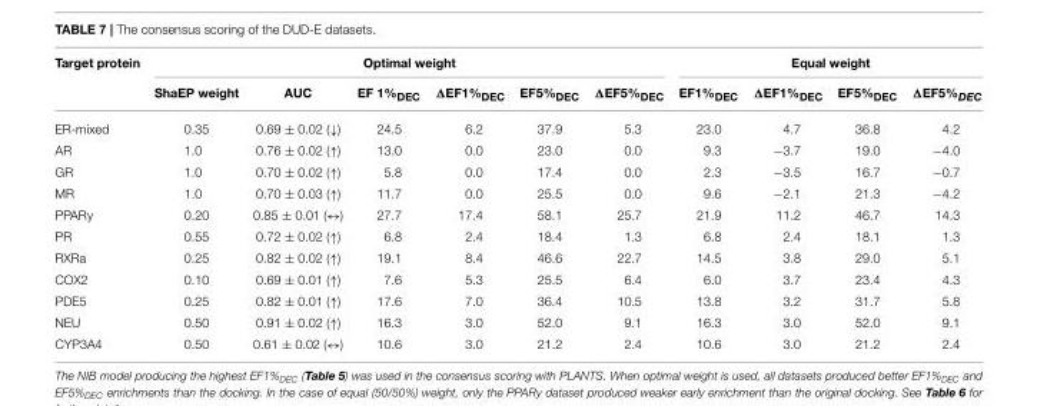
<table><thead><tr><td rowspan="2">Target protein</td><td colspan="6">Optimal weight</td><td colspan="4">Equal weight</td></tr><tr><td>ShaEP weight</td><td>AUC</td><td>EF 1%<sub>DEC</sub></td><td>ΔEF1%<sub>DEC</sub></td><td>EF5%<sub>DEC</sub></td><td>ΔEF5%<sub>DEC</sub></td><td>EF1%<sub>DEC</sub></td><td>ΔEF1%<sub>DEC</sub></td><td>EF5%<sub>DEC</sub></td><td>ΔEF5%<sub>DEC</sub></td></tr></thead><tbody><tr><td>ER-mixed</td><td>0.35</td><td>0.69 ± 0.02 (↓)</td><td>24.5</td><td>6.2</td><td>37.9</td><td>5.3</td><td>23.0</td><td>4.7</td><td>36.8</td><td>4.2</td></tr><tr><td>AR</td><td>1.0</td><td>0.76 ± 0.02 (↑)</td><td>13.0</td><td>0.0</td><td>23.0</td><td>0.0</td><td>9.3</td><td>−3.7</td><td>19.0</td><td>−4.0</td></tr><tr><td>GR</td><td>1.0</td><td>0.70 ± 0.02 (↑)</td><td>5.8</td><td>0.0</td><td>17.4</td><td>0.0</td><td>2.3</td><td>−3.5</td><td>16.7</td><td>−0.7</td></tr><tr><td>MR</td><td>1.0</td><td>0.70 ± 0.03 (↑)</td><td>11.7</td><td>0.0</td><td>25.5</td><td>0.0</td><td>9.6</td><td>−2.1</td><td>21.3</td><td>−4.2</td></tr><tr><td>PPARy</td><td>0.20</td><td>0.85 ± 0.01 (↔)</td><td>27.7</td><td>17.4</td><td>58.1</td><td>25.7</td><td>21.9</td><td>11.2</td><td>46.7</td><td>14.3</td></tr><tr><td>PR</td><td>0.55</td><td>0.72 ± 0.02 (↑)</td><td>6.8</td><td>2.4</td><td>18.4</td><td>1.3</td><td>6.8</td><td>2.4</td><td>18.1</td><td>1.3</td></tr><tr><td>RXRa</td><td>0.25</td><td>0.82 ± 0.02 (↑)</td><td>19.1</td><td>8.4</td><td>46.6</td><td>22.7</td><td>14.5</td><td>3.8</td><td>29.0</td><td>5.1</td></tr><tr><td>COX2</td><td>0.10</td><td>0.69 ± 0.01 (↑)</td><td>7.6</td><td>5.3</td><td>25.5</td><td>6.4</td><td>6.0</td><td>3.7</td><td>23.4</td><td>4.3</td></tr><tr><td>PDE5</td><td>0.25</td><td>0.82 ± 0.01 (↑)</td><td>17.6</td><td>7.0</td><td>36.4</td><td>10.5</td><td>13.8</td><td>3.2</td><td>31.7</td><td>5.8</td></tr><tr><td>NEU</td><td>0.50</td><td>0.91 ± 0.02 (↑)</td><td>16.3</td><td>3.0</td><td>52.0</td><td>9.1</td><td>16.3</td><td>3.0</td><td>52.0</td><td>9.1</td></tr><tr><td>CYP3A4</td><td>0.50</td><td>0.61 ± 0.02 (↔)</td><td>10.6</td><td>3.0</td><td>21.2</td><td>2.4</td><td>10.6</td><td>3.0</td><td>21.2</td><td>2.4</td></tr></tbody></table>